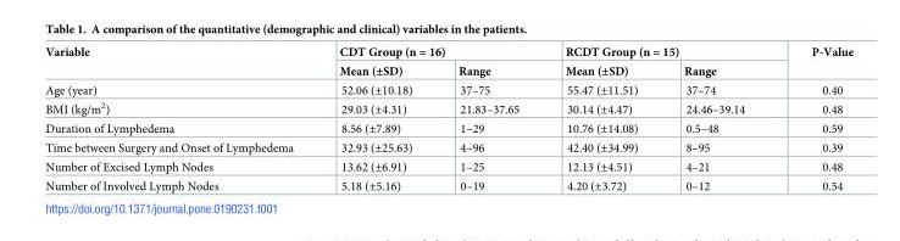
<table><thead><tr><td rowspan="2">Variable</td><td colspan="2">CDT Group (n = 16)</td><td colspan="2">RCDT Group (n = 15)</td><td rowspan="2">P-Value</td></tr><tr><td>Mean (±SD)</td><td>Range</td><td>Mean (±SD)</td><td>Range</td></tr></thead><tbody><tr><td>Age (year)</td><td>52.06 (±10.18)</td><td>37–75</td><td>55.47 (±11.51)</td><td>37–74</td><td>0.40</td></tr><tr><td>BMI (kg/m<sup>2</sup>)</td><td>29.03 (±4.31)</td><td>21.83–37.65</td><td>30.14 (±4.47)</td><td>24.46–39.14</td><td>0.48</td></tr><tr><td>Duration of Lymphedema</td><td>8.56 (±7.89)</td><td>1–29</td><td>10.76 (±14.08)</td><td>0.5–48</td><td>0.59</td></tr><tr><td>Time between Surgery and Onset of Lymphedema</td><td>32.93 (±25.63)</td><td>4–96</td><td>42.40 (±34.99)</td><td>8–95</td><td>0.39</td></tr><tr><td>Number of Excised Lymph Nodes</td><td>13.62 (±6.91)</td><td>1–25</td><td>12.13 (±4.51)</td><td>4–21</td><td>0.48</td></tr><tr><td>Number of Involved Lymph Nodes</td><td>5.18 (±5.16)</td><td>0–19</td><td>4.20 (±3.72)</td><td>0–12</td><td>0.54</td></tr></tbody></table>